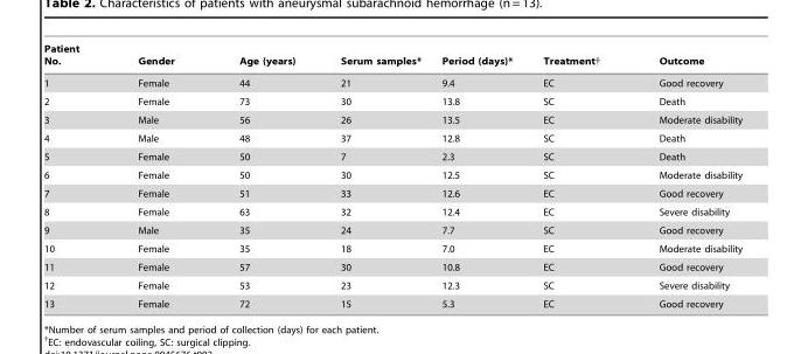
<table><thead><tr><td>Patient No.</td><td>Gender</td><td>Age (years)</td><td>Serum samples*</td><td>Period (days)*</td><td>Treatment†</td><td>Outcome</td></tr></thead><tbody><tr><td>1</td><td>Female</td><td>44</td><td>21</td><td>9.4</td><td>EC</td><td>Good recovery</td></tr><tr><td>2</td><td>Female</td><td>73</td><td>30</td><td>13.8</td><td>SC</td><td>Death</td></tr><tr><td>3</td><td>Male</td><td>56</td><td>26</td><td>13.5</td><td>EC</td><td>Moderate disability</td></tr><tr><td>4</td><td>Male</td><td>48</td><td>37</td><td>12.8</td><td>SC</td><td>Death</td></tr><tr><td>5</td><td>Female</td><td>50</td><td>7</td><td>2.3</td><td>SC</td><td>Death</td></tr><tr><td>6</td><td>Female</td><td>50</td><td>30</td><td>12.5</td><td>SC</td><td>Moderate disability</td></tr><tr><td>7</td><td>Female</td><td>51</td><td>33</td><td>12.6</td><td>EC</td><td>Good recovery</td></tr><tr><td>8</td><td>Female</td><td>63</td><td>32</td><td>12.4</td><td>EC</td><td>Severe disability</td></tr><tr><td>9</td><td>Male</td><td>35</td><td>24</td><td>7.7</td><td>SC</td><td>Good recovery</td></tr><tr><td>10</td><td>Female</td><td>35</td><td>18</td><td>7.0</td><td>EC</td><td>Moderate disability</td></tr><tr><td>11</td><td>Female</td><td>57</td><td>30</td><td>10.8</td><td>EC</td><td>Good recovery</td></tr><tr><td>12</td><td>Female</td><td>53</td><td>23</td><td>12.3</td><td>SC</td><td>Severe disability</td></tr><tr><td>13</td><td>Female</td><td>72</td><td>15</td><td>5.3</td><td>EC</td><td>Good recovery</td></tr></tbody></table>